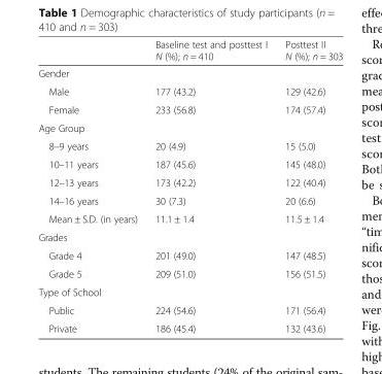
<table><thead><tr><td></td><td>Baseline test and posttest I N (%); n = 410</td><td>Posttest II N (%); n = 303</td></tr></thead><tbody><tr><td colspan="3">Gender</td></tr><tr><td>Male</td><td>177 (43.2)</td><td>129 (42.6)</td></tr><tr><td>Female</td><td>233 (56.8)</td><td>174 (57.4)</td></tr><tr><td colspan="3">Age Group</td></tr><tr><td>8–9 years</td><td>20 (4.9)</td><td>15 (5.0)</td></tr><tr><td>10–11 years</td><td>187 (45.6)</td><td>145 (48.0)</td></tr><tr><td>12–13 years</td><td>173 (42.2)</td><td>122 (40.4)</td></tr><tr><td>14–16 years</td><td>30 (7.3)</td><td>20 (6.6)</td></tr><tr><td>Mean ± S.D. (in years)</td><td>11.1 ± 1.4</td><td>11.5 ± 1.4</td></tr><tr><td colspan="3">Grades</td></tr><tr><td>Grade 4</td><td>201 (49.0)</td><td>147 (48.5)</td></tr><tr><td>Grade 5</td><td>209 (51.0)</td><td>156 (51.5)</td></tr><tr><td colspan="3">Type of School</td></tr><tr><td>Public</td><td>224 (54.6)</td><td>171 (56.4)</td></tr><tr><td>Private</td><td>186 (45.4)</td><td>132 (43.6)</td></tr></tbody></table>